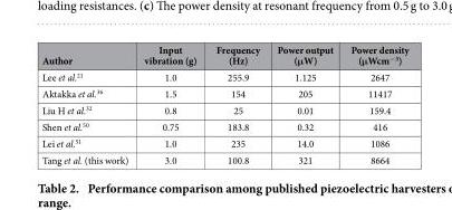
<table><thead><tr><td>Author</td><td>Input vibration (g)</td><td>Frequency (Hz)</td><td>Power output (μW)</td><td>Power density (μWcm<sup>−3</sup>)</td></tr></thead><tbody><tr><td>Lee et al.<sup>21</sup></td><td>1.0</td><td>255.9</td><td>1.125</td><td>2647</td></tr><tr><td>Aktakka et al.<sup>36</sup></td><td>1.5</td><td>154</td><td>205</td><td>11417</td></tr><tr><td>Liu H et al.<sup>32</sup></td><td>0.8</td><td>25</td><td>0.01</td><td>159.4</td></tr><tr><td>Shen et al.<sup>50</sup></td><td>0.75</td><td>183.8</td><td>0.32</td><td>416</td></tr><tr><td>Lei et al.<sup>51</sup></td><td>1.0</td><td>235</td><td>14.0</td><td>1086</td></tr><tr><td>Tang et al. (this work)</td><td>3.0</td><td>100.8</td><td>321</td><td>8664</td></tr></tbody></table>